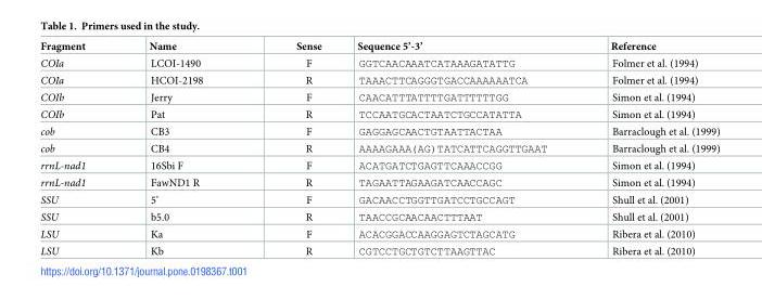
<table><thead><tr><td>Fragment</td><td>Name</td><td>Sense</td><td>Sequence 5’-3’</td><td>Reference</td></tr></thead><tbody><tr><td>COIa</td><td>LCOI-1490</td><td>F</td><td>GGTCAACAAATCATAAAGATATTG</td><td>Folmer et al. (1994)</td></tr><tr><td>COIa</td><td>HCOI-2198</td><td>R</td><td>TAAACTTCAGGGTGACCAAAAAATCA</td><td>Folmer et al. (1994)</td></tr><tr><td>COIb</td><td>Jerry</td><td>F</td><td>CAACATTTATTTTGATTTTTTGG</td><td>Simon et al. (1994)</td></tr><tr><td>COIb</td><td>Pat</td><td>R</td><td>TCCAATGCACTAATCTGCCATATTA</td><td>Simon et al. (1994)</td></tr><tr><td>cob</td><td>CB3</td><td>F</td><td>GAGGAGCAACTGTAATTACTAA</td><td>Barraclough et al. (1999)</td></tr><tr><td>cob</td><td>CB4</td><td>R</td><td>AAAAGAAA(AG)TATCATTCAGGTTGAAT</td><td>Barraclough et al. (1999)</td></tr><tr><td>rrnL-nad1</td><td>16Sbi F</td><td>F</td><td>ACATGATCTGAGTTCAAACCGG</td><td>Simon et al. (1994)</td></tr><tr><td>rrnL-nad1</td><td>FawND1 R</td><td>R</td><td>TAGAATTAGAAGATCAACCAGC</td><td>Simon et al. (1994)</td></tr><tr><td>SSU</td><td>5’</td><td>F</td><td>GACAACCTGGTTGATCCTGCCAGT</td><td>Shull et al. (2001)</td></tr><tr><td>SSU</td><td>b5.0</td><td>R</td><td>TAACCGCAACAACTTTAAT</td><td>Shull et al. (2001)</td></tr><tr><td>LSU</td><td>Ka</td><td>F</td><td>ACACGGACCAAGGAGTCTAGCATG</td><td>Ribera et al. (2010)</td></tr><tr><td>LSU</td><td>Kb</td><td>R</td><td>CGTCCTGCTGTCTTAAGTTAC</td><td>Ribera et al. (2010)</td></tr></tbody></table>